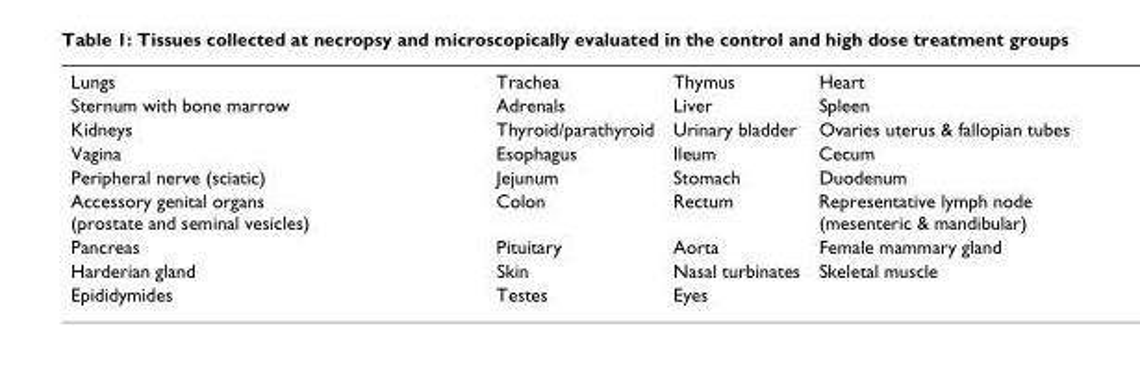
<table><tbody><tr><td>Lungs</td><td>Trachea</td><td>Thymus</td><td>Heart</td></tr><tr><td>Sternum with bone marrow</td><td>Adrenals</td><td>Liver</td><td>Spleen</td></tr><tr><td>Kidneys</td><td>Thyroid/parathyroid</td><td>Urinary bladder</td><td>Ovaries uterus &amp; fallopian tubes</td></tr><tr><td>Vagina</td><td>Esophagus</td><td>Ileum</td><td>Cecum</td></tr><tr><td>Peripheral nerve (sciatic)</td><td>Jejunum</td><td>Stomach</td><td>Duodenum</td></tr><tr><td>Accessory genital organs (prostate and seminal vesicles)</td><td>Colon</td><td>Rectum</td><td>Representative lymph node (mesenteric &amp; mandibular)</td></tr><tr><td>Pancreas</td><td>Pituitary</td><td>Aorta</td><td>Female mammary gland</td></tr><tr><td>Harderian gland</td><td>Skin</td><td>Nasal turbinates</td><td>Skeletal muscle</td></tr><tr><td>Epididymides</td><td>Testes</td><td>Eyes</td><td></td></tr></tbody></table>